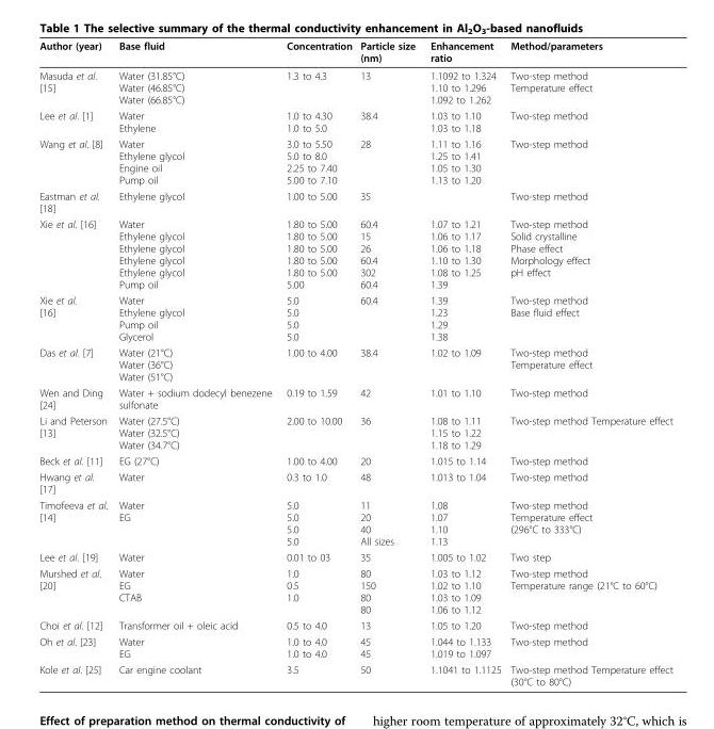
<table><thead><tr><td>Author (year)</td><td>Base fluid</td><td>Concentration</td><td>Particle size (nm)</td><td>Enhancement ratio</td><td>Method/parameters</td></tr></thead><tbody><tr><td>Masuda et al. [15]</td><td>Water (31.85°C) Water (46.85°C) Water (66.85°C)</td><td>1.3 to 4.3</td><td>13</td><td>1.1092 to 1.324 1.10 to 1.296 1.092 to 1.262</td><td>Two-step method Temperature effect</td></tr><tr><td>Lee et al. [1]</td><td>Water Ethylene</td><td>1.0 to 4.30 1.0 to 5.0</td><td>38.4</td><td>1.03 to 1.10 1.03 to 1.18</td><td>Two-step method</td></tr><tr><td>Wang et al. [8]</td><td>Water Ethylene glycol Engine oil Pump oil</td><td>3.0 to 5.50 5.0 to 8.0 2.25 to 7.40 5.00 to 7.10</td><td>28</td><td>1.11 to 1.16 1.25 to 1.41 1.05 to 1.30 1.13 to 1.20</td><td>Two-step method</td></tr><tr><td>Eastman et al. [18]</td><td>Ethylene glycol</td><td>1.00 to 5.00</td><td>35</td><td></td><td>Two-step method</td></tr><tr><td>Xie et al. [16]</td><td>Water Ethylene glycol Ethylene glycol Ethylene glycol Ethylene glycol Pump oil</td><td>1.80 to 5.00 1.80 to 5.00 1.80 to 5.00 1.80 to 5.00 1.80 to 5.00 5.00</td><td>60.4 15 26 60.4 302 60.4</td><td>1.07 to 1.21 1.06 to 1.17 1.06 to 1.18 1.10 to 1.30 1.08 to 1.25 1.39</td><td>Two-step method Solid crystalline Phase effect Morphology effect pH effect</td></tr><tr><td>Xie et al. [16]</td><td>Water Ethylene glycol Pump oil Glycerol</td><td>5.0 5.0 5.0 5.0</td><td>60.4</td><td>1.39 1.23 1.29 1.38</td><td>Two-step method Base fluid effect</td></tr><tr><td>Das et al. [7]</td><td>Water (21°C) Water (36°C) Water (51°C)</td><td>1.00 to 4.00</td><td>38.4</td><td>1.02 to 1.09</td><td>Two-step method Temperature effect</td></tr><tr><td>Wen and Ding [24]</td><td>Water + sodium dodecyl benezene sulfonate</td><td>0.19 to 1.59</td><td>42</td><td>1.01 to 1.10</td><td>Two-step method</td></tr><tr><td>Li and Peterson [13]</td><td>Water (27.5°C) Water (32.5°C) Water (34.7°C)</td><td>2.00 to 10.00</td><td>36</td><td>1.08 to 1.11 1.15 to 1.22 1.18 to 1.29</td><td>Two-step method Temperature effect</td></tr><tr><td>Beck et al. [11]</td><td>EG (27°C)</td><td>1.00 to 4.00</td><td>20</td><td>1.015 to 1.14</td><td>Two-step method</td></tr><tr><td>Hwang et al. [17]</td><td>Water</td><td>0.3 to 1.0</td><td>48</td><td>1.013 to 1.04</td><td>Two-step method</td></tr><tr><td>Timofeeva et al. [14]</td><td>Water EG</td><td>5.0 5.0 5.0 5.0</td><td>11 20 40 All sizes</td><td>1.08 1.07 1.10 1.13</td><td>Two-step method Temperature effect (296°C to 333°C)</td></tr><tr><td>Lee et al. [19]</td><td>Water</td><td>0.01 to 03</td><td>35</td><td>1.005 to 1.02</td><td>Two step</td></tr><tr><td>Murshed et al. [20]</td><td>Water EG CTAB</td><td>1.0 0.5 1.0</td><td>80 150 80 80</td><td>1.03 to 1.12 1.02 to 1.10 1.03 to 1.09 1.06 to 1.12</td><td>Two-step method Temperature range (21°C to 60°C)</td></tr><tr><td>Choi et al. [12]</td><td>Transformer oil + oleic acid</td><td>0.5 to 4.0</td><td>13</td><td>1.05 to 1.20</td><td>Two-step method</td></tr><tr><td>Oh et al. [23]</td><td>Water EG</td><td>1.0 to 4.0 1.0 to 4.0</td><td>45 45</td><td>1.044 to 1.133 1.019 to 1.097</td><td>Two-step method</td></tr><tr><td>Kole et al. [25]</td><td>Car engine coolant</td><td>3.5</td><td>50</td><td>1.1041 to 1.1125</td><td>Two-step method Temperature effect (30°C to 80°C)</td></tr></tbody></table>